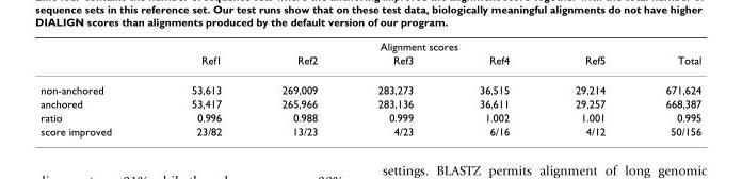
<table><thead><tr><td rowspan="2"></td><td colspan="6">Alignment scores</td></tr><tr><td>Ref1</td><td>Ref2</td><td>Ref3</td><td>Ref4</td><td>Ref5</td><td>Total</td></tr></thead><tbody><tr><td>non-anchored</td><td>53,613</td><td>269,009</td><td>283,273</td><td>36,515</td><td>29,214</td><td>671,624</td></tr><tr><td>anchored</td><td>53,417</td><td>265,966</td><td>283,136</td><td>36,611</td><td>29,257</td><td>668,387</td></tr><tr><td>ratio</td><td>0.996</td><td>0.988</td><td>0.999</td><td>1.002</td><td>1.001</td><td>0.995</td></tr><tr><td>score improved</td><td>23/82</td><td>13/23</td><td>4/23</td><td>6/16</td><td>4/12</td><td>50/156</td></tr></tbody></table>